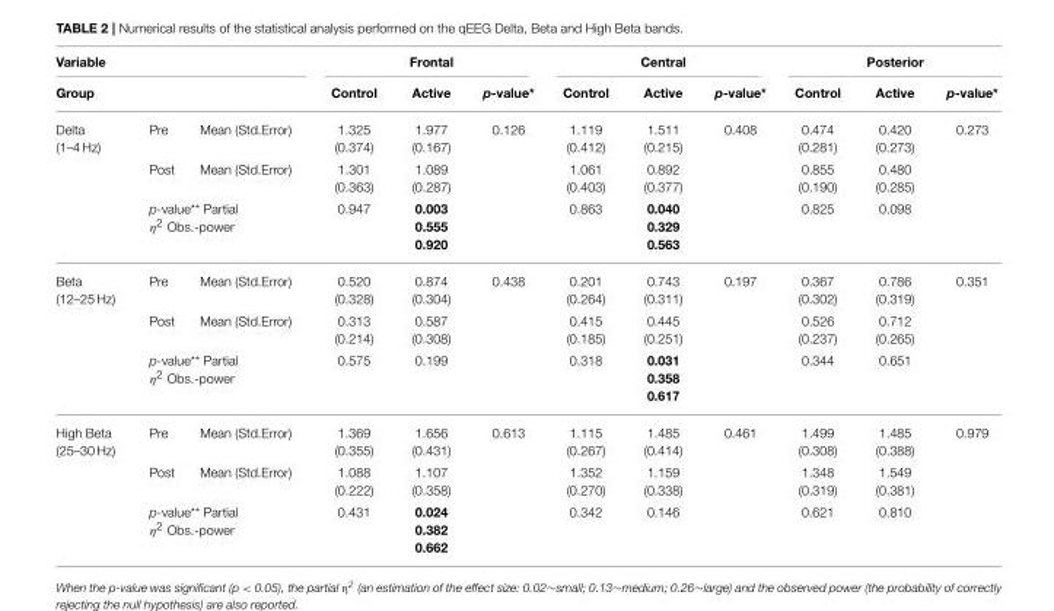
<table><thead><tr><td rowspan="2" colspan="3">Variable Group</td><td colspan="3">Frontal</td><td colspan="3">Central</td><td colspan="3">Posterior</td></tr><tr><td rowspan="2">Control 1.325 (0.374)</td><td rowspan="2">Active 1.977 (0.167)</td><td rowspan="2">p-value* 0.126</td><td rowspan="2">Control 1.119 (0.412)</td><td rowspan="2">Active 1.511 (0.215)</td><td rowspan="2">p-value* 0.408</td><td rowspan="2">Control 0.474 (0.281)</td><td rowspan="2">Active 0.420 (0.273)</td><td rowspan="2">p-value* 0.273</td></tr><tr><td>Delta (1–4 Hz)</td><td>Pre</td><td>Mean (Std.Error)</td></tr></thead><tbody><tr><td></td><td>Post</td><td>Mean (Std.Error)</td><td>1.301 (0.363)</td><td>1.089 (0.287)</td><td></td><td>1.061 (0.403)</td><td>0.892 (0.377)</td><td></td><td>0.855 (0.190)</td><td>0.480 (0.285)</td><td></td></tr><tr><td></td><td colspan="2">p-value** Partial η<sup>2</sup> Obs.-power</td><td>0.947</td><td>0.003 0.555 0.920</td><td></td><td>0.863</td><td>0.040 0.329 0.563</td><td></td><td>0.825</td><td>0.098</td><td></td></tr><tr><td rowspan="3">Beta (12–25 Hz)</td><td>Pre</td><td>Mean (Std.Error)</td><td>0.520 (0.328)</td><td>0.874 (0.304)</td><td>0.438</td><td>0.201 (0.264)</td><td>0.743 (0.311)</td><td>0.197</td><td>0.367 (0.302)</td><td>0.786 (0.319)</td><td>0.351</td></tr><tr><td>Post</td><td>Mean (Std.Error)</td><td>0.313 (0.214)</td><td>0.587 (0.308)</td><td></td><td>0.415 (0.185)</td><td>0.445 (0.251)</td><td></td><td>0.526 (0.237)</td><td>0.712 (0.265)</td><td></td></tr><tr><td colspan="2">p-value** Partial η<sup>2</sup> Obs.-power</td><td>0.575</td><td>0.199</td><td></td><td>0.318</td><td>0.031 0.358 0.617</td><td></td><td>0.344</td><td>0.651</td><td></td></tr><tr><td rowspan="3">High Beta (25–30 Hz)</td><td>Pre</td><td>Mean (Std.Error)</td><td>1.369 (0.355)</td><td>1.656 (0.431)</td><td>0.613</td><td>1.115 (0.267)</td><td>1.485 (0.414)</td><td>0.461</td><td>1.499 (0.308)</td><td>1.485 (0.388)</td><td>0.979</td></tr><tr><td>Post</td><td>Mean (Std.Error)</td><td>1.088 (0.222)</td><td>1.107 (0.358)</td><td></td><td>1.352 (0.270)</td><td>1.159 (0.338)</td><td></td><td>1.348 (0.319)</td><td>1.549 (0.381)</td><td></td></tr><tr><td colspan="2">p-value** Partial η<sup>2</sup> Obs.-power</td><td>0.431</td><td>0.024 0.382 0.662</td><td></td><td>0.342</td><td>0.146</td><td></td><td>0.621</td><td>0.810</td><td></td></tr></tbody></table>